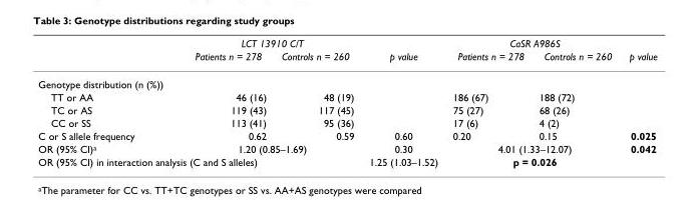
<table><thead><tr><td rowspan="2"></td><td colspan="2">LCT 13910 C/T</td><td rowspan="2">p value</td><td colspan="2">CaSR A986S</td><td rowspan="2">p value</td></tr><tr><td>Patients n = 278</td><td>Controls n = 260</td><td>Patients n = 278</td><td>Controls n = 260</td></tr></thead><tbody><tr><td colspan="7">Genotype distribution (n (%))</td></tr><tr><td>TT or AA</td><td>46 (16)</td><td>48 (19)</td><td></td><td>186 (67)</td><td>188 (72)</td><td></td></tr><tr><td>TC or AS</td><td>119 (43)</td><td>117 (45)</td><td></td><td>75 (27)</td><td>68 (26)</td><td></td></tr><tr><td>CC or SS</td><td>113 (41)</td><td>95 (36)</td><td></td><td>17 (6)</td><td>4 (2)</td><td></td></tr><tr><td>C or S allele frequency</td><td>0.62</td><td>0.59</td><td>0.60</td><td>0.20</td><td>0.15</td><td>0.025</td></tr><tr><td>OR (95% CI)<sup>a</sup></td><td colspan="2">1.20 (0.85–1.69)</td><td>0.30</td><td colspan="2">4.01 (1.33–12.07)</td><td>0.042</td></tr><tr><td colspan="3">OR (95% CI) in interaction analysis (C and S alleles)</td><td>1.25 (1.03–1.52)</td><td colspan="2">p = 0.026</td><td></td></tr></tbody></table>